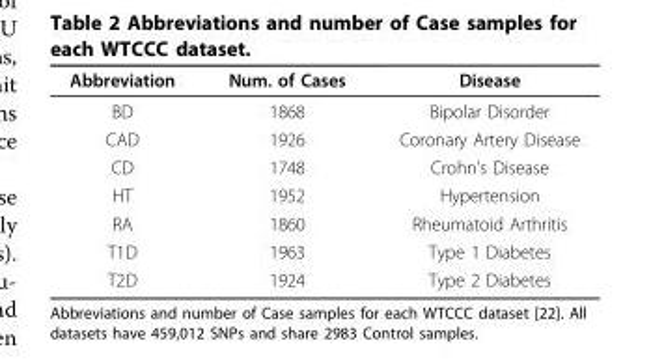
<table><thead><tr><td>Abbreviation</td><td>Num. of Cases</td><td>Disease</td></tr></thead><tbody><tr><td>BD</td><td>1868</td><td>Bipolar Disorder</td></tr><tr><td>CAD</td><td>1926</td><td>Coronary Artery Disease</td></tr><tr><td>CD</td><td>1748</td><td>Crohn’s Disease</td></tr><tr><td>HT</td><td>1952</td><td>Hypertension</td></tr><tr><td>RA</td><td>1860</td><td>Rheumatoid Arthritis</td></tr><tr><td>T1D</td><td>1963</td><td>Type 1 Diabetes</td></tr><tr><td>T2D</td><td>1924</td><td>Type 2 Diabetes</td></tr></tbody></table>